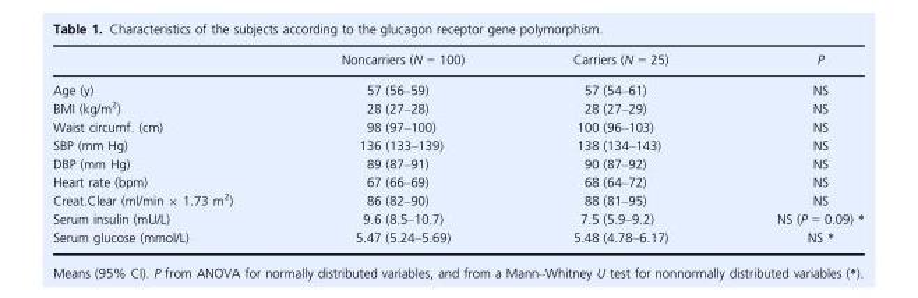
<table><thead><tr><td></td><td>Noncarriers (N = 100)</td><td>Carriers (N = 25)</td><td>P</td></tr></thead><tbody><tr><td>Age (y)</td><td>57 (56–59)</td><td>57 (54–61)</td><td>NS</td></tr><tr><td>BMI (kg/m<sup>2</sup>)</td><td>28 (27–28)</td><td>28 (27–29)</td><td>NS</td></tr><tr><td>Waist circumf. (cm)</td><td>98 (97–100)</td><td>100 (96–103)</td><td>NS</td></tr><tr><td>SBP (mm Hg)</td><td>136 (133–139)</td><td>138 (134–143)</td><td>NS</td></tr><tr><td>DBP (mm Hg)</td><td>89 (87–91)</td><td>90 (87–92)</td><td>NS</td></tr><tr><td>Heart rate (bpm)</td><td>67 (66–69)</td><td>68 (64–72)</td><td>NS</td></tr><tr><td>Creat.Clear (ml/min × 1.73 m<sup>2</sup>)</td><td>86 (82–90)</td><td>88 (81–95)</td><td>NS</td></tr><tr><td>Serum insulin (mU/L)</td><td>9.6 (8.5–10.7)</td><td>7.5 (5.9–9.2)</td><td>NS (P = 0.09) *</td></tr><tr><td>Serum glucose (mmol/L)</td><td>5.47 (5.24–5.69)</td><td>5.48 (4.78–6.17)</td><td>NS *</td></tr></tbody></table>